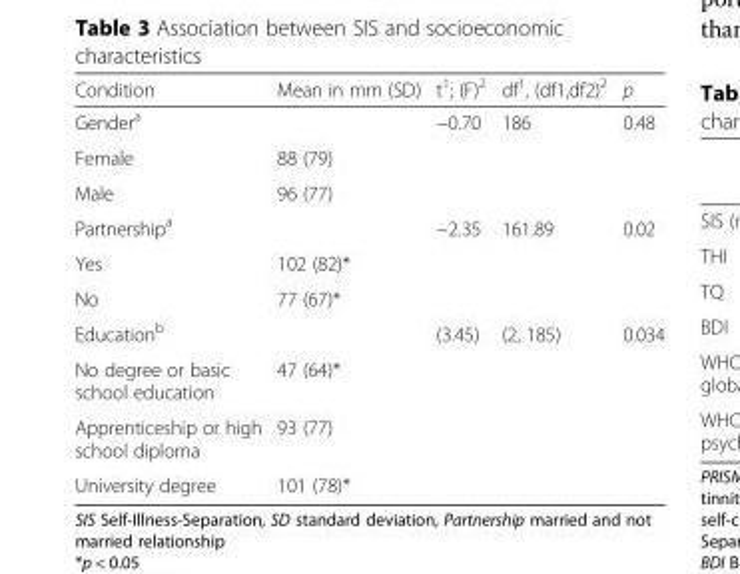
<table><thead><tr><td>Condition</td><td>Mean in mm (SD)</td><td>t<sup>1</sup>; (F)<sup>2</sup></td><td>df<sup>1</sup>, (df1,df2)<sup>2</sup></td><td>p</td></tr></thead><tbody><tr><td>Gender<sup>a</sup></td><td></td><td>−0.70</td><td>186</td><td>0.48</td></tr><tr><td>Female</td><td>88 (79)</td><td></td><td></td><td></td></tr><tr><td>Male</td><td>96 (77)</td><td></td><td></td><td></td></tr><tr><td>Partnership<sup>a</sup></td><td></td><td>−2.35</td><td>161.89</td><td>0.02</td></tr><tr><td>Yes</td><td>102 (82)*</td><td></td><td></td><td></td></tr><tr><td>No</td><td>77 (67)*</td><td></td><td></td><td></td></tr><tr><td>Education<sup>b</sup></td><td></td><td>(3.45)</td><td>(2, 185)</td><td>0.034</td></tr><tr><td>No degree or basic school education</td><td>47 (64)*</td><td></td><td></td><td></td></tr><tr><td>Apprenticeship or high school diploma</td><td>93 (77)</td><td></td><td></td><td></td></tr><tr><td>University degree</td><td>101 (78)*</td><td></td><td></td><td></td></tr></tbody></table>